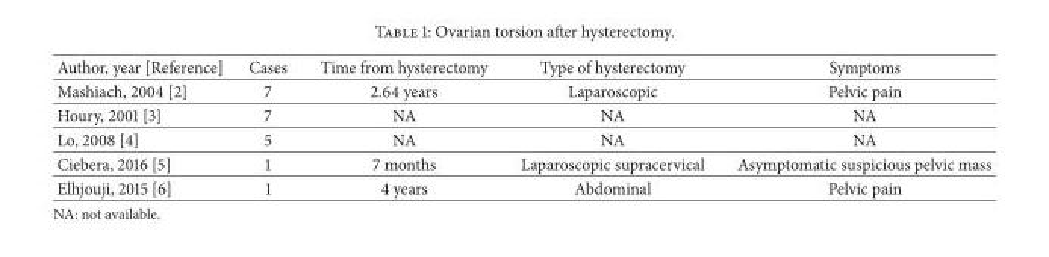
<table><thead><tr><td>Author, year [Reference]</td><td>Cases</td><td>Time from hysterectomy</td><td>Type of hysterectomy</td><td>Symptoms</td></tr></thead><tbody><tr><td>Mashiach, 2004 [2]</td><td>7</td><td>2.64 years</td><td>Laparoscopic</td><td>Pelvic pain</td></tr><tr><td>Houry, 2001 [3]</td><td>7</td><td>NA</td><td>NA</td><td>NA</td></tr><tr><td>Lo, 2008 [4]</td><td>5</td><td>NA</td><td>NA</td><td>NA</td></tr><tr><td>Ciebera, 2016 [5]</td><td>1</td><td>7 months</td><td>Laparoscopic supracervical</td><td>Asymptomatic suspicious pelvic mass</td></tr><tr><td>Elhjouji, 2015 [6]</td><td>1</td><td>4 years</td><td>Abdominal</td><td>Pelvic pain</td></tr></tbody></table>